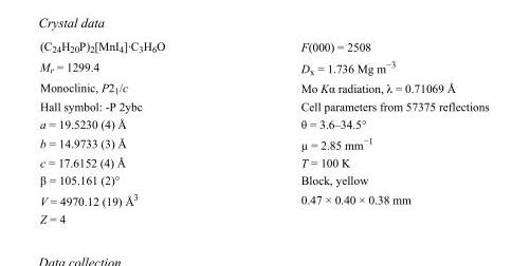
<table><tbody><tr><td>(C<sub>24</sub>H<sub>20</sub>P)<sub>2</sub>[MnI<sub>4</sub>]·C<sub>3</sub>H<sub>6</sub>O</td><td>F(000) = 2508</td></tr><tr><td>M<sub>r</sub> = 1299.4</td><td>D<sub>x</sub> = 1.736 Mg m<sup>−3</sup></td></tr><tr><td>Monoclinic, P2<sub>1</sub>/c</td><td>Mo Kα radiation, λ = 0.71069 Å</td></tr><tr><td>Hall symbol: -P 2ybc</td><td>Cell parameters from 57375 reflections</td></tr><tr><td>a = 19.5230 (4) Å</td><td>θ = 3.6–34.5°</td></tr><tr><td>b = 14.9733 (3) Å</td><td>µ = 2.85 mm<sup>−1</sup></td></tr><tr><td>c = 17.6152 (4) Å</td><td>T = 100 K</td></tr><tr><td>β = 105.161 (2)°</td><td>Block, yellow</td></tr><tr><td>V = 4970.12 (19) Å<sup>3</sup></td><td>0.47 × 0.40 × 0.38 mm</td></tr><tr><td>Z = 4</td><td></td></tr></tbody></table>